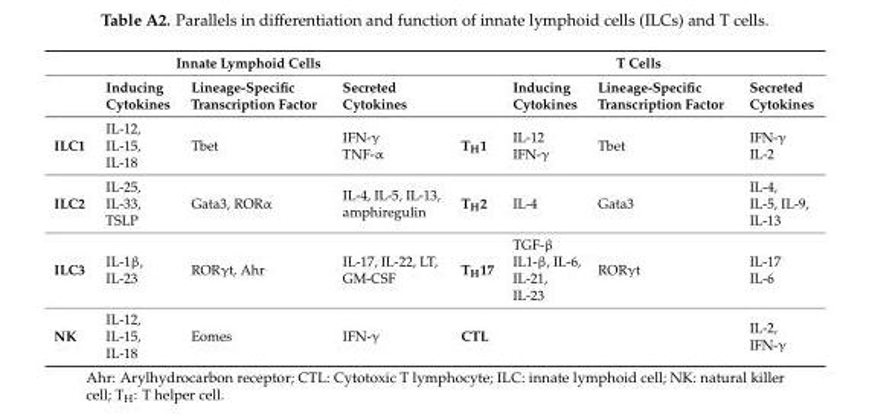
<table><thead><tr><td colspan="4">Innate Lymphoid Cells</td><td colspan="4">T Cells</td></tr><tr><td></td><td>Inducing Cytokines</td><td>Lineage-Specific Transcription Factor</td><td>Secreted Cytokines</td><td></td><td>Inducing Cytokines</td><td>Lineage-Specific Transcription Factor</td><td>Secreted Cytokines</td></tr></thead><tbody><tr><td>ILC1</td><td>IL-12, IL-15, IL-18</td><td>Tbet</td><td>IFN-γ TNF-α</td><td>T<sub>H</sub>1</td><td>IL-12 IFN-γ</td><td>Tbet</td><td>IFN-γ IL-2</td></tr><tr><td>ILC2</td><td>IL-25, IL-33, TSLP</td><td>Gata3, RORα</td><td>IL-4, IL-5, IL-13, amphiregulin</td><td>T<sub>H</sub>2</td><td>IL-4</td><td>Gata3</td><td>IL-4, IL-5, IL-9, IL-13</td></tr><tr><td>ILC3</td><td>IL-1β, IL-23</td><td>RORγt, Ahr</td><td>IL-17, IL-22, LT, GM-CSF</td><td>T<sub>H</sub>17</td><td>TGF-β IL1-β, IL-6, IL-21, IL-23</td><td>RORγt</td><td>IL-17 IL-6</td></tr><tr><td>NK</td><td>IL-12, IL-15, IL-18</td><td>Eomes</td><td>IFN-γ</td><td>CTL</td><td></td><td></td><td>IL-2, IFN-γ</td></tr></tbody></table>